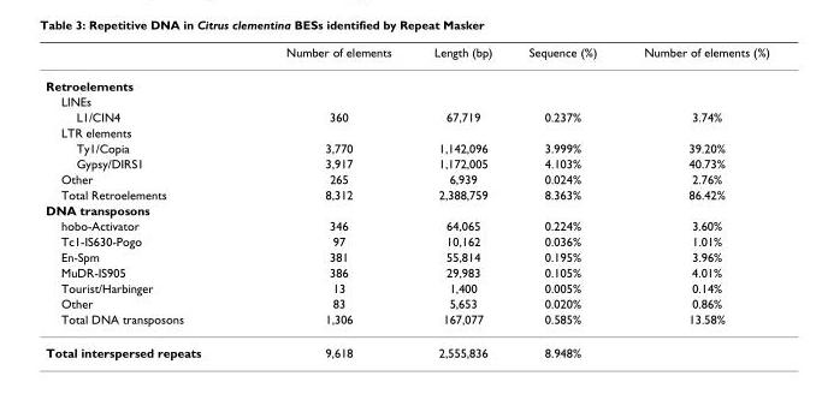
<table><thead><tr><td></td><td>Number of elements</td><td>Length (bp)</td><td>Sequence (%)</td><td>Number of elements (%)</td></tr></thead><tbody><tr><td colspan="5">Retroelements</td></tr><tr><td colspan="5">LINEs</td></tr><tr><td>L1/CIN4</td><td>360</td><td>67,719</td><td>0.237%</td><td>3.74%</td></tr><tr><td colspan="5">LTR elements</td></tr><tr><td>Ty1/Copia</td><td>3,770</td><td>1,142,096</td><td>3.999%</td><td>39.20%</td></tr><tr><td>Gypsy/DIRS1</td><td>3,917</td><td>1,172,005</td><td>4.103%</td><td>40.73%</td></tr><tr><td>Other</td><td>265</td><td>6,939</td><td>0.024%</td><td>2.76%</td></tr><tr><td>Total Retroelements</td><td>8,312</td><td>2,388,759</td><td>8.363%</td><td>86.42%</td></tr><tr><td colspan="5">DNA transposons</td></tr><tr><td>hobo-Activator</td><td>346</td><td>64,065</td><td>0.224%</td><td>3.60%</td></tr><tr><td>Tc1-IS630-Pogo</td><td>97</td><td>10,162</td><td>0.036%</td><td>1.01%</td></tr><tr><td>En-Spm</td><td>381</td><td>55,814</td><td>0.195%</td><td>3.96%</td></tr><tr><td>MuDR-IS905</td><td>386</td><td>29,983</td><td>0.105%</td><td>4.01%</td></tr><tr><td>Tourist/Harbinger</td><td>13</td><td>1,400</td><td>0.005%</td><td>0.14%</td></tr><tr><td>Other</td><td>83</td><td>5,653</td><td>0.020%</td><td>0.86%</td></tr><tr><td>Total DNA transposons</td><td>1,306</td><td>167,077</td><td>0.585%</td><td>13.58%</td></tr><tr><td>Total interspersed repeats</td><td>9,618</td><td>2,555,836</td><td>8.948%</td><td></td></tr></tbody></table>